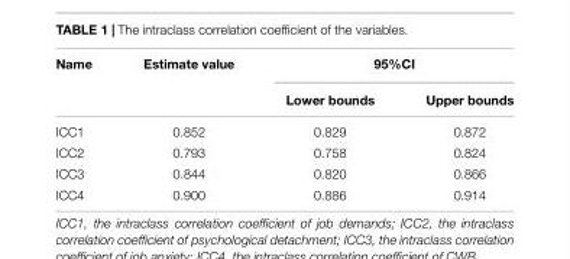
<table><thead><tr><td rowspan="2">Name</td><td rowspan="2">Estimate value</td><td colspan="2">95%CI</td></tr><tr><td>Lower bounds</td><td>Upper bounds</td></tr></thead><tbody><tr><td>ICC1</td><td>0.852</td><td>0.829</td><td>0.872</td></tr><tr><td>ICC2</td><td>0.793</td><td>0.758</td><td>0.824</td></tr><tr><td>ICC3</td><td>0.844</td><td>0.820</td><td>0.866</td></tr><tr><td>ICC4</td><td>0.900</td><td>0.886</td><td>0.914</td></tr></tbody></table>